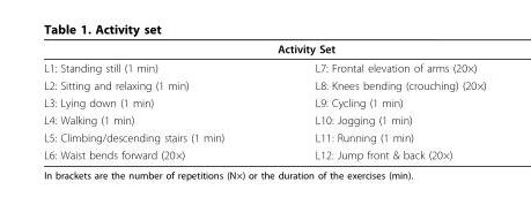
<table><thead><tr><td colspan="2">Activity Set</td></tr><tr><td>L1: Standing still (1 min)</td><td>L7: Frontal elevation of arms (20×)</td></tr></thead><tbody><tr><td>L2: Sitting and relaxing (1 min)</td><td>L8: Knees bending (crouching) (20×)</td></tr><tr><td>L3: Lying down (1 min)</td><td>L9: Cycling (1 min)</td></tr><tr><td>L4: Walking (1 min)</td><td>L10: Jogging (1 min)</td></tr><tr><td>L5: Climbing/descending stairs (1 min)</td><td>L11: Running (1 min)</td></tr><tr><td>L6: Waist bends forward (20×)</td><td>L12: Jump front &amp; back (20×)</td></tr></tbody></table>